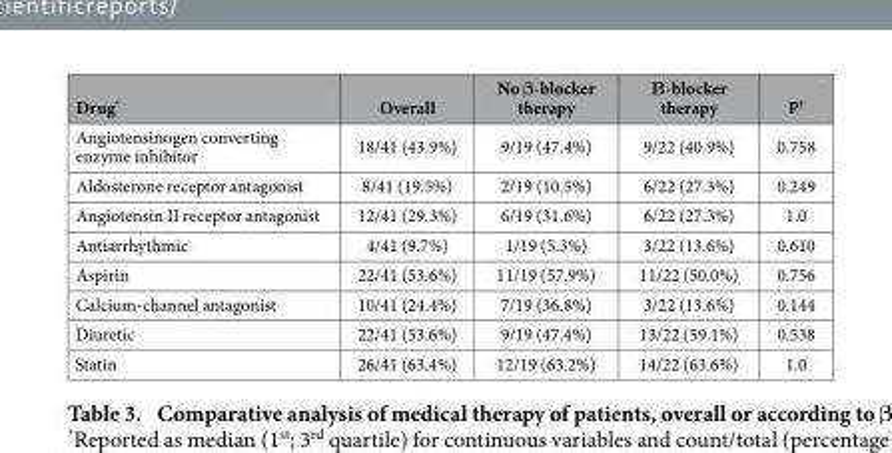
<table><thead><tr><td>Drug*</td><td>Overall</td><td>No β-blocker therapy</td><td>Β-blocker therapy</td><td>P†</td></tr></thead><tbody><tr><td>Angiotensinogen converting enzyme inhibitor</td><td>18/41 (43.9%)</td><td>9/19 (47.4%)</td><td>9/22 (40.9%)</td><td>0.758</td></tr><tr><td>Aldosterone receptor antagonist</td><td>8/41 (19.5%)</td><td>2/19 (10.5%)</td><td>6/22 (27.3%)</td><td>0.249</td></tr><tr><td>Angiotensin II receptor antagonist</td><td>12/41 (29.3%)</td><td>6/19 (31.6%)</td><td>6/22 (27.3%)</td><td>1.0</td></tr><tr><td>Antiarrhythmic</td><td>4/41 (9.7%)</td><td>1/19 (5.3%)</td><td>3/22 (13.6%)</td><td>0.610</td></tr><tr><td>Aspirin</td><td>22/41 (53.6%)</td><td>11/19 (57.9%)</td><td>11/22 (50.0%)</td><td>0.756</td></tr><tr><td>Calcium-channel antagonist</td><td>10/41 (24.4%)</td><td>7/19 (36.8%)</td><td>3/22 (13.6%)</td><td>0.144</td></tr><tr><td>Diuretic</td><td>22/41 (53.6%)</td><td>9/19 (47.4%)</td><td>13/22 (59.1%)</td><td>0.538</td></tr><tr><td>Statin</td><td>26/41 (63.4%)</td><td>12/19 (63.2%)</td><td>14/22 (63.6%)</td><td>1.0</td></tr></tbody></table>